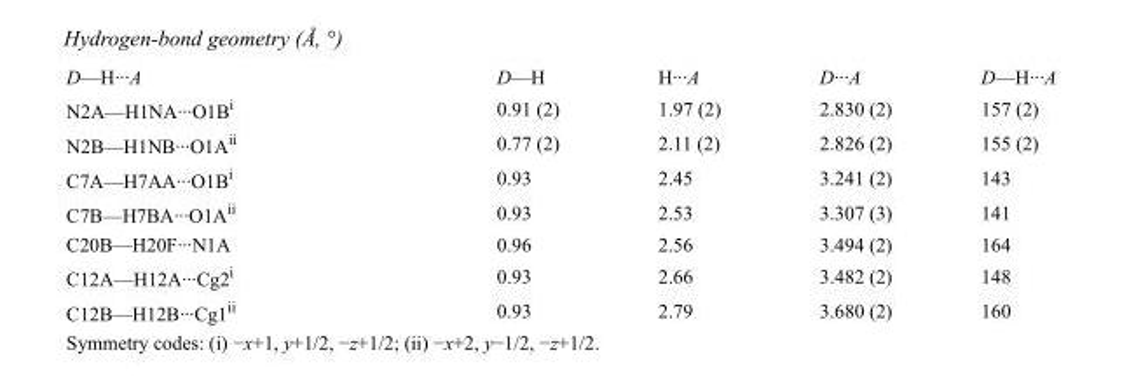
<table><tbody><tr><td>D—H···A</td><td>D—H</td><td>H···A</td><td>D···A</td><td>D—H···A</td></tr><tr><td>N2A—H1NA···O1B<sup>i</sup></td><td>0.91 (2)</td><td>1.97 (2)</td><td>2.830 (2)</td><td>157 (2)</td></tr><tr><td>N2B—H1NB···O1A<sup>ii</sup></td><td>0.77 (2)</td><td>2.11 (2)</td><td>2.826 (2)</td><td>155 (2)</td></tr><tr><td>C7A—H7AA···O1B<sup>i</sup></td><td>0.93</td><td>2.45</td><td>3.241 (2)</td><td>143</td></tr><tr><td>C7B—H7BA···O1A<sup>ii</sup></td><td>0.93</td><td>2.53</td><td>3.307 (3)</td><td>141</td></tr><tr><td>C20B—H20F···N1A</td><td>0.96</td><td>2.56</td><td>3.494 (2)</td><td>164</td></tr><tr><td>C12A—H12A···Cg2<sup>i</sup></td><td>0.93</td><td>2.66</td><td>3.482 (2)</td><td>148</td></tr><tr><td>C12B—H12B···Cg1<sup>ii</sup></td><td>0.93</td><td>2.79</td><td>3.680 (2)</td><td>160</td></tr></tbody></table>